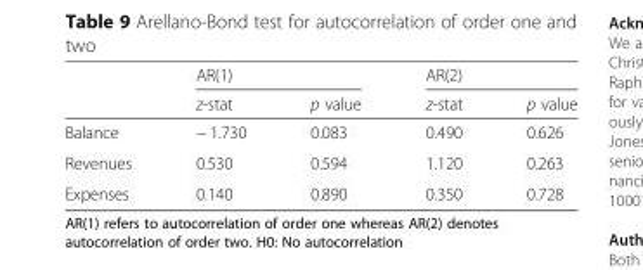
<table><thead><tr><td rowspan="2"></td><td colspan="2">AR(1)</td><td colspan="2">AR(2)</td></tr><tr><td>z-stat</td><td>p value</td><td>z-stat</td><td>p value</td></tr></thead><tbody><tr><td>Balance</td><td>− 1.730</td><td>0.083</td><td>0.490</td><td>0.626</td></tr><tr><td>Revenues</td><td>0.530</td><td>0.594</td><td>1.120</td><td>0.263</td></tr><tr><td>Expenses</td><td>0.140</td><td>0.890</td><td>0.350</td><td>0.728</td></tr></tbody></table>